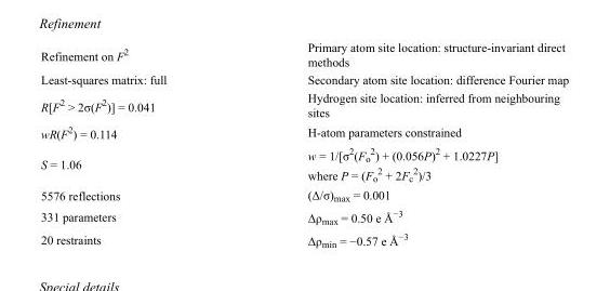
<table><tbody><tr><td>Refinement on F<sup>2</sup></td><td>Primary atom site location: structure-invariant direct methods</td></tr><tr><td>Least-squares matrix: full</td><td>Secondary atom site location: difference Fourier map</td></tr><tr><td>R[F<sup>2</sup> &gt; 2σ(F<sup>2</sup>)] = 0.041</td><td>Hydrogen site location: inferred from neighbouring sites</td></tr><tr><td>wR(F<sup>2</sup>) = 0.114</td><td>H-atom parameters constrained</td></tr><tr><td>S = 1.06</td><td>w = 1/[σ<sup>2</sup>(F<sub>o</sub> <sup>2</sup>) + (0.056P)<sup>2</sup> + 1.0227P] where P = (F<sub>o</sub> <sup>2</sup> + 2F<sub>c</sub> <sup>2</sup>)/3</td></tr><tr><td>5576 reflections</td><td>(Δ/σ)<sub>max</sub> = 0.001</td></tr><tr><td>331 parameters</td><td>Δρ<sub>max</sub> = 0.50 e Å<sup>−3</sup></td></tr><tr><td>20 restraints</td><td>Δρ<sub>min</sub> = −0.57 e Å<sup>−3</sup></td></tr></tbody></table>